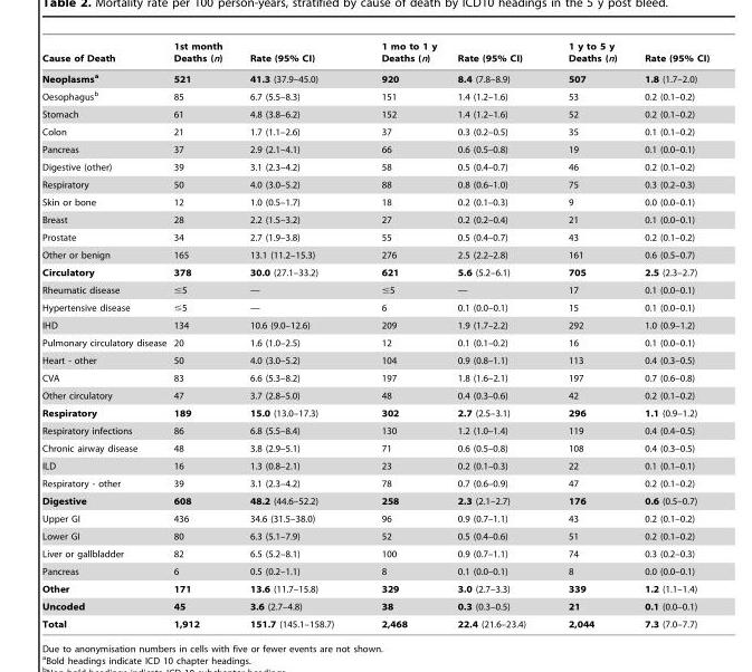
<table><thead><tr><td>Cause of Death</td><td>1st month Deaths (n)</td><td>Rate (95% CI)</td><td>1 mo to 1 y Deaths (n)</td><td>Rate (95% CI)</td><td>1 y to 5 y Deaths (n)</td><td>Rate (95% CI)</td></tr></thead><tbody><tr><td>Neoplasmsa</td><td>521</td><td>41.3 (37.9–45.0)</td><td>920</td><td>8.4 (7.8–8.9)</td><td>507</td><td>1.8 (1.7–2.0)</td></tr><tr><td>Oesophagus<sup>b</sup></td><td>85</td><td>6.7 (5.5–8.3)</td><td>151</td><td>1.4 (1.2–1.6)</td><td>53</td><td>0.2 (0.1–0.2)</td></tr><tr><td>Stomach</td><td>61</td><td>4.8 (3.8–6.2)</td><td>152</td><td>1.4 (1.2–1.6)</td><td>52</td><td>0.2 (0.1–0.2)</td></tr><tr><td>Colon</td><td>21</td><td>1.7 (1.1–2.6)</td><td>37</td><td>0.3 (0.2–0.5)</td><td>35</td><td>0.1 (0.1–0.2)</td></tr><tr><td>Pancreas</td><td>37</td><td>2.9 (2.1–4.1)</td><td>66</td><td>0.6 (0.5–0.8)</td><td>19</td><td>0.1 (0.0–0.1)</td></tr><tr><td>Digestive (other)</td><td>39</td><td>3.1 (2.3–4.2)</td><td>58</td><td>0.5 (0.4–0.7)</td><td>46</td><td>0.2 (0.1–0.2)</td></tr><tr><td>Respiratory</td><td>50</td><td>4.0 (3.0–5.2)</td><td>88</td><td>0.8 (0.6–1.0)</td><td>75</td><td>0.3 (0.2–0.3)</td></tr><tr><td>Skin or bone</td><td>12</td><td>1.0 (0.5–1.7)</td><td>18</td><td>0.2 (0.1–0.3)</td><td>9</td><td>0.0 (0.0–0.1)</td></tr><tr><td>Breast</td><td>28</td><td>2.2 (1.5–3.2)</td><td>27</td><td>0.2 (0.2–0.4)</td><td>21</td><td>0.1 (0.0–0.1)</td></tr><tr><td>Prostate</td><td>34</td><td>2.7 (1.9–3.8)</td><td>55</td><td>0.5 (0.4–0.7)</td><td>43</td><td>0.2 (0.1–0.2)</td></tr><tr><td>Other or benign</td><td>165</td><td>13.1 (11.2–15.3)</td><td>276</td><td>2.5 (2.2–2.8)</td><td>161</td><td>0.6 (0.5–0.7)</td></tr><tr><td>Circulatory</td><td>378</td><td>30.0 (27.1–33.2)</td><td>621</td><td>5.6 (5.2–6.1)</td><td>705</td><td>2.5 (2.3–2.7)</td></tr><tr><td>Rheumatic disease</td><td>≤5</td><td>—</td><td>≤5</td><td>—</td><td>17</td><td>0.1 (0.0–0.1)</td></tr><tr><td>Hypertensive disease</td><td>≤5</td><td>—</td><td>6</td><td>0.1 (0.0–0.1)</td><td>15</td><td>0.1 (0.0–0.1)</td></tr><tr><td>IHD</td><td>134</td><td>10.6 (9.0–12.6)</td><td>209</td><td>1.9 (1.7–2.2)</td><td>292</td><td>1.0 (0.9–1.2)</td></tr><tr><td>Pulmonary circulatory disease</td><td>20</td><td>1.6 (1.0–2.5)</td><td>12</td><td>0.1 (0.1–0.2)</td><td>16</td><td>0.1 (0.0–0.1)</td></tr><tr><td>Heart - other</td><td>50</td><td>4.0 (3.0–5.2)</td><td>104</td><td>0.9 (0.8–1.1)</td><td>113</td><td>0.4 (0.3–0.5)</td></tr><tr><td>CVA</td><td>83</td><td>6.6 (5.3–8.2)</td><td>197</td><td>1.8 (1.6–2.1)</td><td>197</td><td>0.7 (0.6–0.8)</td></tr><tr><td>Other circulatory</td><td>47</td><td>3.7 (2.8–5.0)</td><td>48</td><td>0.4 (0.3–0.6)</td><td>42</td><td>0.2 (0.1–0.2)</td></tr><tr><td>Respiratory</td><td>189</td><td>15.0 (13.0–17.3)</td><td>302</td><td>2.7 (2.5–3.1)</td><td>296</td><td>1.1 (0.9–1.2)</td></tr><tr><td>Respiratory infections</td><td>86</td><td>6.8 (5.5–8.4)</td><td>130</td><td>1.2 (1.0–1.4)</td><td>119</td><td>0.4 (0.4–0.5)</td></tr><tr><td>Chronic airway disease</td><td>48</td><td>3.8 (2.9–5.1)</td><td>71</td><td>0.6 (0.5–0.8)</td><td>108</td><td>0.4 (0.3–0.5)</td></tr><tr><td>ILD</td><td>16</td><td>1.3 (0.8–2.1)</td><td>23</td><td>0.2 (0.1–0.3)</td><td>22</td><td>0.1 (0.1–0.1)</td></tr><tr><td>Respiratory - other</td><td>39</td><td>3.1 (2.3–4.2)</td><td>78</td><td>0.7 (0.6–0.9)</td><td>47</td><td>0.2 (0.1–0.2)</td></tr><tr><td>Digestive</td><td>608</td><td>48.2 (44.6–52.2)</td><td>258</td><td>2.3 (2.1–2.7)</td><td>176</td><td>0.6 (0.5–0.7)</td></tr><tr><td>Upper GI</td><td>436</td><td>34.6 (31.5–38.0)</td><td>96</td><td>0.9 (0.7–1.1)</td><td>43</td><td>0.2 (0.1–0.2)</td></tr><tr><td>Lower GI</td><td>80</td><td>6.3 (5.1–7.9)</td><td>52</td><td>0.5 (0.4–0.6)</td><td>51</td><td>0.2 (0.1–0.2)</td></tr><tr><td>Liver or gallbladder</td><td>82</td><td>6.5 (5.2–8.1)</td><td>100</td><td>0.9 (0.7–1.1)</td><td>74</td><td>0.3 (0.2–0.3)</td></tr><tr><td>Pancreas</td><td>6</td><td>0.5 (0.2–1.1)</td><td>8</td><td>0.1 (0.0–0.1)</td><td>8</td><td>0.0 (0.0–0.1)</td></tr><tr><td>Other</td><td>171</td><td>13.6 (11.7–15.8)</td><td>329</td><td>3.0 (2.7–3.3)</td><td>339</td><td>1.2 (1.1–1.4)</td></tr><tr><td>Uncoded</td><td>45</td><td>3.6 (2.7–4.8)</td><td>38</td><td>0.3 (0.3–0.5)</td><td>21</td><td>0.1 (0.0–0.1)</td></tr><tr><td>Total</td><td>1,912</td><td>151.7 (145.1–158.7)</td><td>2,468</td><td>22.4 (21.6–23.4)</td><td>2,044</td><td>7.3 (7.0–7.7)</td></tr></tbody></table>